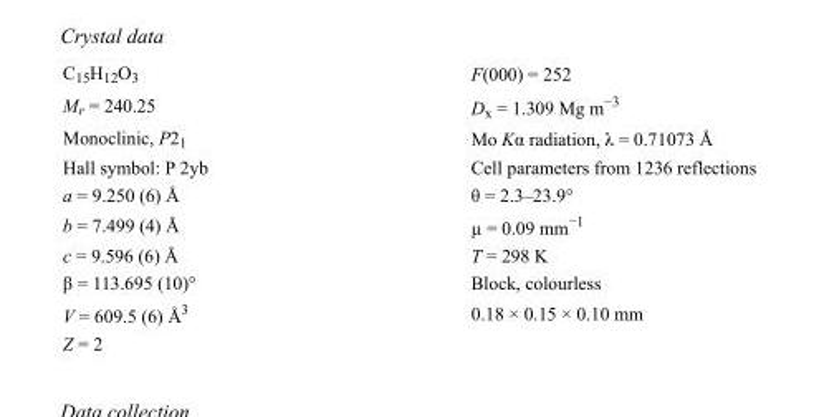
<table><tbody><tr><td>C<sub>15</sub>H<sub>12</sub>O<sub>3</sub></td><td>F(000) = 252</td></tr><tr><td>M<sub>r</sub> = 240.25</td><td>D<sub>x</sub> = 1.309 Mg m<sup>−3</sup></td></tr><tr><td>Monoclinic, P2<sub>1</sub></td><td>Mo Kα radiation, λ = 0.71073 Å</td></tr><tr><td>Hall symbol: P 2yb</td><td>Cell parameters from 1236 reflections</td></tr><tr><td>a = 9.250 (6) Å</td><td>θ = 2.3–23.9°</td></tr><tr><td>b = 7.499 (4) Å</td><td>µ = 0.09 mm<sup>−1</sup></td></tr><tr><td>c = 9.596 (6) Å</td><td>T = 298 K</td></tr><tr><td>β = 113.695 (10)°</td><td>Block, colourless</td></tr><tr><td>V = 609.5 (6) Å<sup>3</sup></td><td>0.18 × 0.15 × 0.10 mm</td></tr><tr><td>Z = 2</td><td></td></tr></tbody></table>